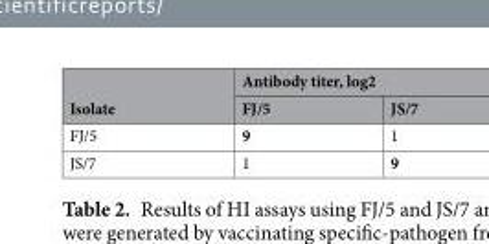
<table><thead><tr><td rowspan="2">Isolate</td><td colspan="2">Antibody titer, log2</td></tr><tr><td>FJ/5</td><td>JS/7</td></tr></thead><tbody><tr><td>FJ/5</td><td>9</td><td>1</td></tr><tr><td>JS/7</td><td>1</td><td>9</td></tr></tbody></table>